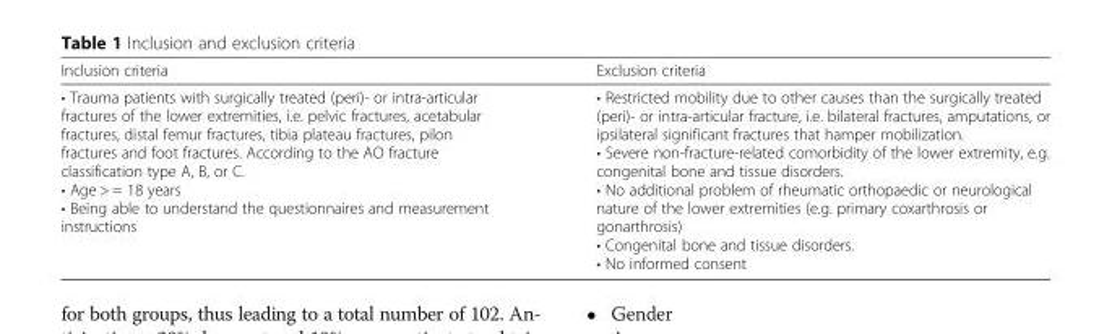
<table><thead><tr><td>Inclusion criteria</td><td>Exclusion criteria</td></tr></thead><tbody><tr><td>• Trauma patients with surgically treated (peri)- or intra-articular fractures of the lower extremities, i.e. pelvic fractures, acetabular fractures, distal femur fractures, tibia plateau fractures, pilon fractures and foot fractures. According to the AO fracture classification type A, B, or C. • Age &gt; = 18 years • Being able to understand the questionnaires and measurement instructions</td><td>• Restricted mobility due to other causes than the surgically treated (peri)- or intra-articular fracture, i.e. bilateral fractures, amputations, or ipsilateral significant fractures that hamper mobilization. • Severe non-fracture-related comorbidity of the lower extremity, e.g. congenital bone and tissue disorders. • No additional problem of rheumatic orthopaedic or neurological nature of the lower extremities (e.g. primary coxarthrosis or gonarthrosis) • Congenital bone and tissue disorders. • No informed consent</td></tr></tbody></table>